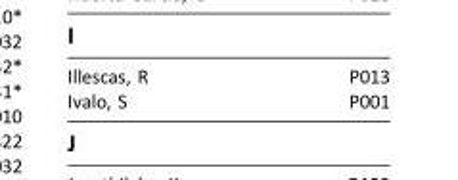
<table><tbody><tr><td>Illescas, R</td><td>P013</td></tr><tr><td>Ivalo, S</td><td>P001</td></tr></tbody></table>